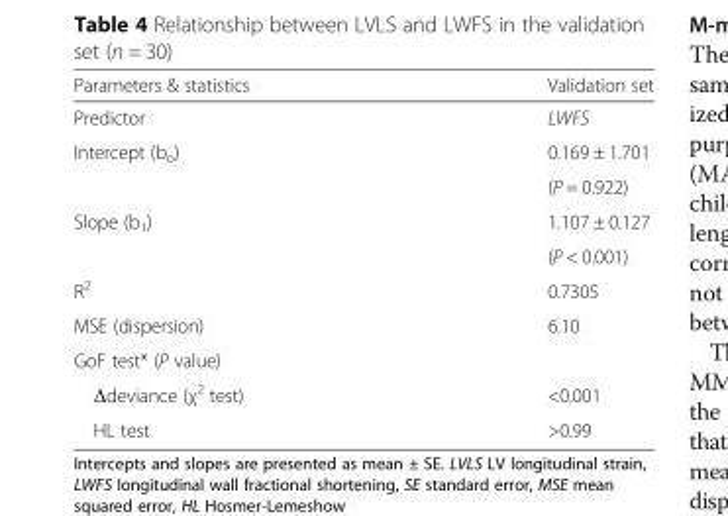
<table><thead><tr><td>Parameters &amp; statistics</td><td>Validation set</td></tr></thead><tbody><tr><td>Predictor</td><td>LWFS</td></tr><tr><td rowspan="2">Intercept (b<sub>o</sub>)</td><td>0.169 ± 1.701</td></tr><tr><td>(P = 0.922)</td></tr><tr><td rowspan="2">Slope (b<sub>1</sub>)</td><td>1.107 ± 0.127</td></tr><tr><td>(P &lt; 0.001)</td></tr><tr><td>R<sup>2</sup></td><td>0.7305</td></tr><tr><td>MSE (dispersion)</td><td>6.10</td></tr><tr><td colspan="2">GoF test* (P value)</td></tr><tr><td>Δdeviance (χ<sup>2</sup> test)</td><td>&lt;0.001</td></tr><tr><td>HL test</td><td>&gt;0.99</td></tr></tbody></table>